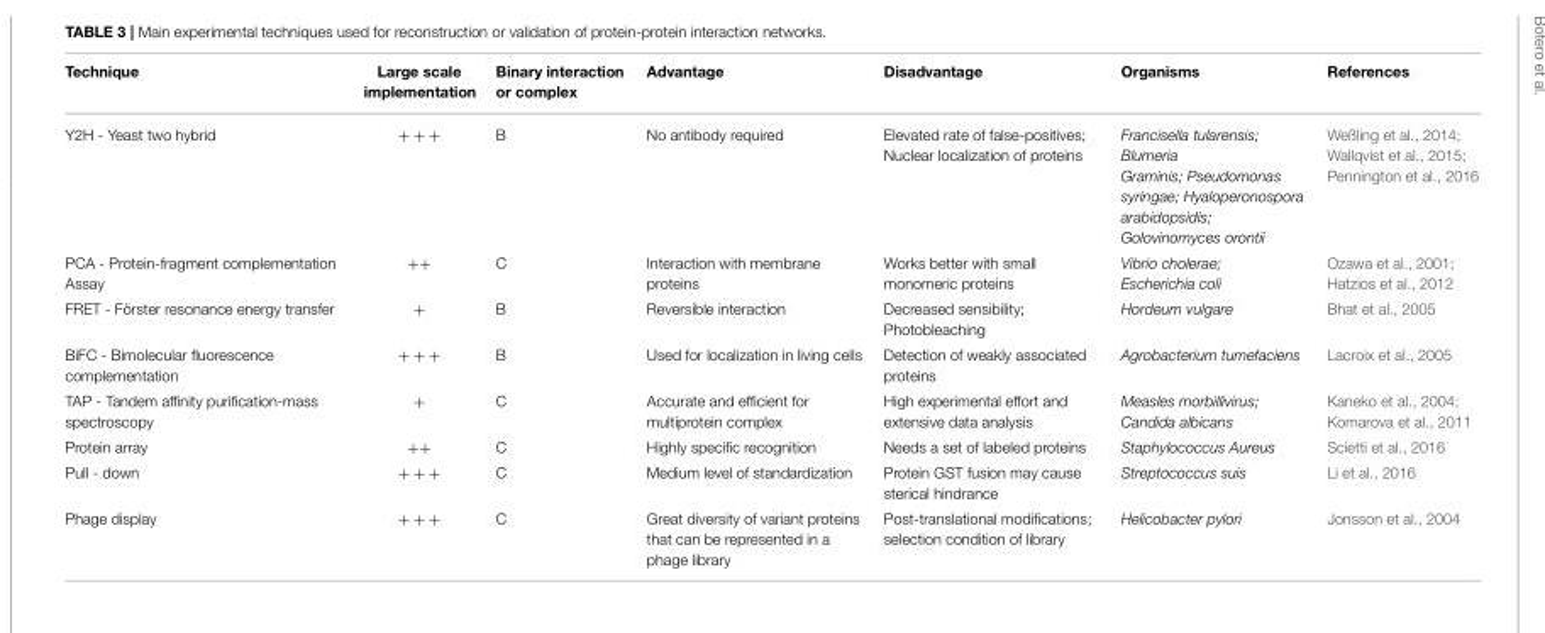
<table><thead><tr><td>Technique</td><td>Large scale implementation</td><td>Binary interaction or complex</td><td>Advantage</td><td>Disadvantage</td><td>Organisms</td><td>References</td></tr></thead><tbody><tr><td>Y2H - Yeast two hybrid</td><td>+ + +</td><td>B</td><td>No antibody required</td><td>Elevated rate of false-positives; Nuclear localization of proteins</td><td>Francisella tularensis; Blumeria Graminis; Pseudomonas syringae; Hyaloperonospora arabidopsidis; Golovinomyces orontii</td><td>Weßling et al., 2014; Wallqvist et al., 2015; Pennington et al., 2016</td></tr><tr><td>PCA - Protein-fragment complementation Assay</td><td>++</td><td>C</td><td>Interaction with membrane proteins</td><td>Works better with small monomeric proteins</td><td>Vibrio cholerae; Escherichia coli</td><td>Ozawa et al., 2001; Hatzios et al., 2012</td></tr><tr><td>FRET - Förster resonance energy transfer</td><td>+</td><td>B</td><td>Reversible interaction</td><td>Decreased sensibility; Photobleaching</td><td>Hordeum vulgare</td><td>Bhat et al., 2005</td></tr><tr><td>BiFC - Bimolecular fluorescence complementation</td><td>+ + +</td><td>B</td><td>Used for localization in living cells</td><td>Detection of weakly associated proteins</td><td>Agrobacterium tumefaciens</td><td>Lacroix et al., 2005</td></tr><tr><td>TAP - Tandem affinity purification-mass spectroscopy</td><td>+</td><td>C</td><td>Accurate and efficient for multiprotein complex</td><td>High experimental effort and extensive data analysis</td><td>Measles morbillivirus; Candida albicans</td><td>Kaneko et al., 2004; Komarova et al., 2011</td></tr><tr><td>Protein array</td><td>++</td><td>C</td><td>Highly specific recognition</td><td>Needs a set of labeled proteins</td><td>Staphylococcus Aureus</td><td>Scietti et al., 2016</td></tr><tr><td>Pull - down</td><td>+ + +</td><td>C</td><td>Medium level of standardization</td><td>Protein GST fusion may cause sterical hindrance</td><td>Streptococcus suis</td><td>Li et al., 2016</td></tr><tr><td>Phage display</td><td>+ + +</td><td>C</td><td>Great diversity of variant proteins that can be represented in a phage library</td><td>Post-translational modifications; selection condition of library</td><td>Helicobacter pylori</td><td>Jonsson et al., 2004</td></tr></tbody></table>